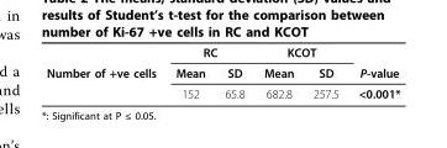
<table><thead><tr><td rowspan="2">Number of +ve cells</td><td colspan="2">RC</td><td colspan="2">KCOT</td><td rowspan="2">P-value</td></tr><tr><td>Mean</td><td>SD</td><td>Mean</td><td>SD</td></tr></thead><tbody><tr><td></td><td>152</td><td>65.8</td><td>682.8</td><td>257.5</td><td>&lt;0.001*</td></tr></tbody></table>